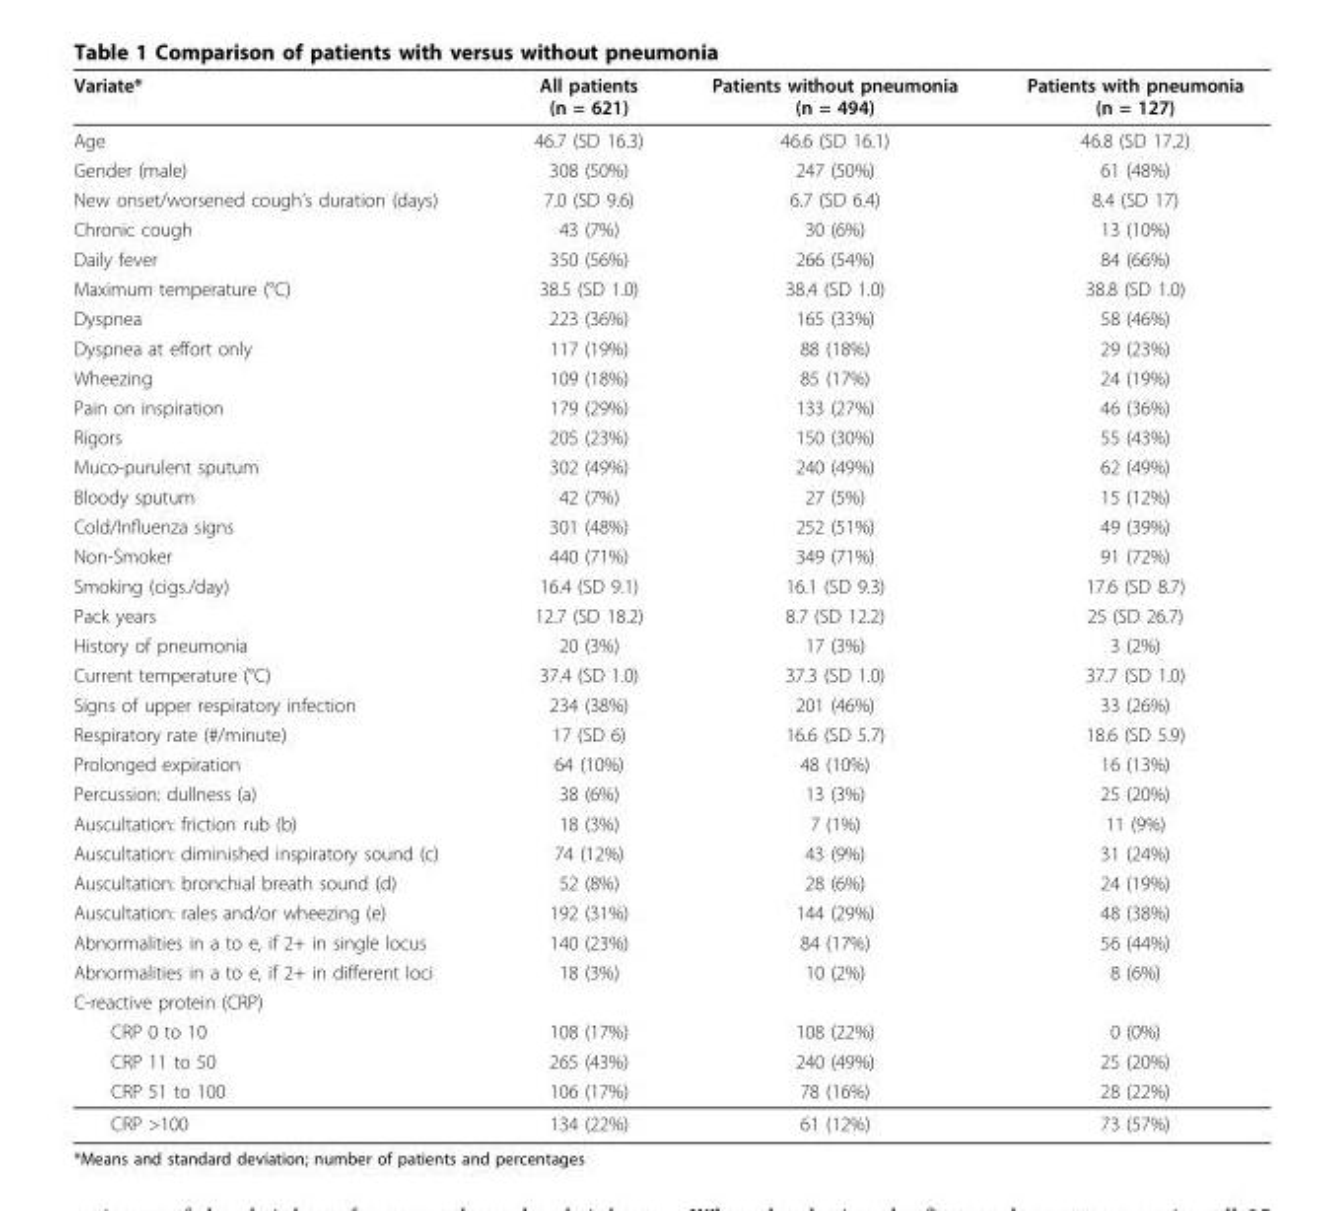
<table><thead><tr><td>Variate*</td><td>All patients (n = 621)</td><td>Patients without pneumonia (n = 494)</td><td>Patients with pneumonia (n = 127)</td></tr></thead><tbody><tr><td>Age</td><td>46.7 (SD 16.3)</td><td>46.6 (SD 16.1)</td><td>46.8 (SD 17.2)</td></tr><tr><td>Gender (male)</td><td>308 (50%)</td><td>247 (50%)</td><td>61 (48%)</td></tr><tr><td>New onset/worsened cough’s duration (days)</td><td>7.0 (SD 9.6)</td><td>6.7 (SD 6.4)</td><td>8.4 (SD 17)</td></tr><tr><td>Chronic cough</td><td>43 (7%)</td><td>30 (6%)</td><td>13 (10%)</td></tr><tr><td>Daily fever</td><td>350 (56%)</td><td>266 (54%)</td><td>84 (66%)</td></tr><tr><td>Maximum temperature (°C)</td><td>38.5 (SD 1.0)</td><td>38.4 (SD 1.0)</td><td>38.8 (SD 1.0)</td></tr><tr><td>Dyspnea</td><td>223 (36%)</td><td>165 (33%)</td><td>58 (46%)</td></tr><tr><td>Dyspnea at effort only</td><td>117 (19%)</td><td>88 (18%)</td><td>29 (23%)</td></tr><tr><td>Wheezing</td><td>109 (18%)</td><td>85 (17%)</td><td>24 (19%)</td></tr><tr><td>Pain on inspiration</td><td>179 (29%)</td><td>133 (27%)</td><td>46 (36%)</td></tr><tr><td>Rigors</td><td>205 (23%)</td><td>150 (30%)</td><td>55 (43%)</td></tr><tr><td>Muco-purulent sputum</td><td>302 (49%)</td><td>240 (49%)</td><td>62 (49%)</td></tr><tr><td>Bloody sputum</td><td>42 (7%)</td><td>27 (5%)</td><td>15 (12%)</td></tr><tr><td>Cold/Influenza signs</td><td>301 (48%)</td><td>252 (51%)</td><td>49 (39%)</td></tr><tr><td>Non-Smoker</td><td>440 (71%)</td><td>349 (71%)</td><td>91 (72%)</td></tr><tr><td>Smoking (cigs./day)</td><td>16.4 (SD 9.1)</td><td>16.1 (SD 9.3)</td><td>17.6 (SD 8.7)</td></tr><tr><td>Pack years</td><td>12.7 (SD 18.2)</td><td>8.7 (SD 12.2)</td><td>25 (SD 26.7)</td></tr><tr><td>History of pneumonia</td><td>20 (3%)</td><td>17 (3%)</td><td>3 (2%)</td></tr><tr><td>Current temperature (°C)</td><td>37.4 (SD 1.0)</td><td>37.3 (SD 1.0)</td><td>37.7 (SD 1.0)</td></tr><tr><td>Signs of upper respiratory infection</td><td>234 (38%)</td><td>201 (46%)</td><td>33 (26%)</td></tr><tr><td>Respiratory rate (#/minute)</td><td>17 (SD 6)</td><td>16.6 (SD 5.7)</td><td>18.6 (SD 5.9)</td></tr><tr><td>Prolonged expiration</td><td>64 (10%)</td><td>48 (10%)</td><td>16 (13%)</td></tr><tr><td>Percussion: dullness (a)</td><td>38 (6%)</td><td>13 (3%)</td><td>25 (20%)</td></tr><tr><td>Auscultation: friction rub (b)</td><td>18 (3%)</td><td>7 (1%)</td><td>11 (9%)</td></tr><tr><td>Auscultation: diminished inspiratory sound (c)</td><td>74 (12%)</td><td>43 (9%)</td><td>31 (24%)</td></tr><tr><td>Auscultation: bronchial breath sound (d)</td><td>52 (8%)</td><td>28 (6%)</td><td>24 (19%)</td></tr><tr><td>Auscultation: rales and/or wheezing (e)</td><td>192 (31%)</td><td>144 (29%)</td><td>48 (38%)</td></tr><tr><td>Abnormalities in a to e, if 2+ in single locus</td><td>140 (23%)</td><td>84 (17%)</td><td>56 (44%)</td></tr><tr><td>Abnormalities in a to e, if 2+ in different loci</td><td>18 (3%)</td><td>10 (2%)</td><td>8 (6%)</td></tr><tr><td colspan="4">C-reactive protein (CRP)</td></tr><tr><td>CRP 0 to 10</td><td>108 (17%)</td><td>108 (22%)</td><td>0 (0%)</td></tr><tr><td>CRP 11 to 50</td><td>265 (43%)</td><td>240 (49%)</td><td>25 (20%)</td></tr><tr><td>CRP 51 to 100</td><td>106 (17%)</td><td>78 (16%)</td><td>28 (22%)</td></tr><tr><td>CRP &gt;100</td><td>134 (22%)</td><td>61 (12%)</td><td>73 (57%)</td></tr></tbody></table>